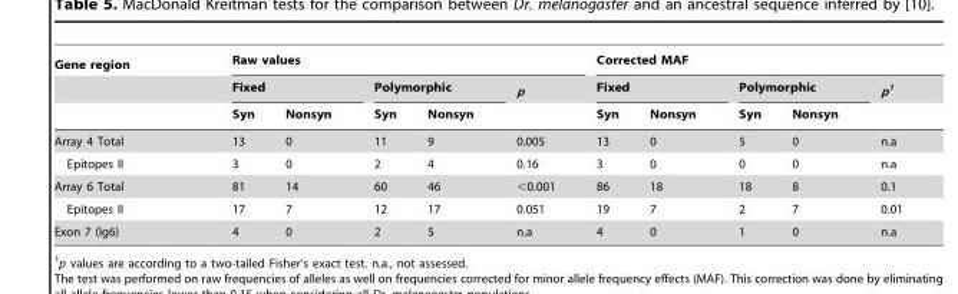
<table><thead><tr><td rowspan="3">Gene region</td><td colspan="5">Raw values</td><td colspan="5">Corrected MAF</td></tr><tr><td colspan="2">Fixed</td><td colspan="2">Polymorphic</td><td rowspan="2">p</td><td colspan="2">Fixed</td><td colspan="2">Polymorphic</td><td rowspan="2">p1</td></tr><tr><td>Syn</td><td>Nonsyn</td><td>Syn</td><td>Nonsyn</td><td>Syn</td><td>Nonsyn</td><td>Syn</td><td>Nonsyn</td></tr></thead><tbody><tr><td>Array 4 Total</td><td>13</td><td>0</td><td>11</td><td>9</td><td>0.005</td><td>13</td><td>0</td><td>5</td><td>0</td><td>n.a</td></tr><tr><td>Epitopes II</td><td>3</td><td>0</td><td>2</td><td>4</td><td>0.16</td><td>3</td><td>0</td><td>0</td><td>0</td><td>n.a</td></tr><tr><td>Array 6 Total</td><td>81</td><td>14</td><td>60</td><td>46</td><td>&lt;0.001</td><td>86</td><td>18</td><td>18</td><td>8</td><td>0.1</td></tr><tr><td>Epitopes II</td><td>17</td><td>7</td><td>12</td><td>17</td><td>0.051</td><td>19</td><td>7</td><td>2</td><td>7</td><td>0.01</td></tr><tr><td>Exon 7 (Ig6)</td><td>4</td><td>0</td><td>2</td><td>5</td><td>n.a</td><td>4</td><td>0</td><td>1</td><td>0</td><td>n.a</td></tr></tbody></table>